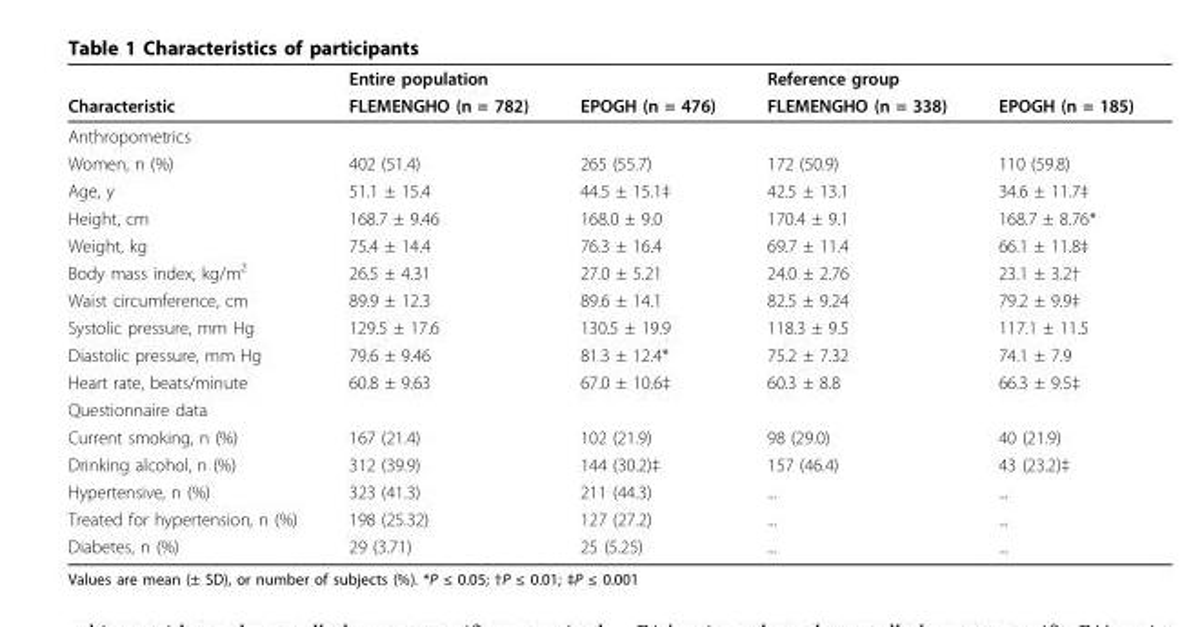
<table><thead><tr><td rowspan="2">Characteristic</td><td colspan="2">Entire population</td><td colspan="2">Reference group</td></tr><tr><td>FLEMENGHO (n = 782)</td><td>EPOGH (n = 476)</td><td>FLEMENGHO (n = 338)</td><td>EPOGH (n = 185)</td></tr></thead><tbody><tr><td colspan="5">Anthropometrics</td></tr><tr><td>Women, n (%)</td><td>402 (51.4)</td><td>265 (55.7)</td><td>172 (50.9)</td><td>110 (59.8)</td></tr><tr><td>Age, y</td><td>51.1 ± 15.4</td><td>44.5 ± 15.1‡</td><td>42.5 ± 13.1</td><td>34.6 ± 11.7‡</td></tr><tr><td>Height, cm</td><td>168.7 ± 9.46</td><td>168.0 ± 9.0</td><td>170.4 ± 9.1</td><td>168.7 ± 8.76*</td></tr><tr><td>Weight, kg</td><td>75.4 ± 14.4</td><td>76.3 ± 16.4</td><td>69.7 ± 11.4</td><td>66.1 ± 11.8‡</td></tr><tr><td>Body mass index, kg/m<sup>2</sup></td><td>26.5 ± 4.31</td><td>27.0 ± 5.21</td><td>24.0 ± 2.76</td><td>23.1 ± 3.2†</td></tr><tr><td>Waist circumference, cm</td><td>89.9 ± 12.3</td><td>89.6 ± 14.1</td><td>82.5 ± 9.24</td><td>79.2 ± 9.9‡</td></tr><tr><td>Systolic pressure, mm Hg</td><td>129.5 ± 17.6</td><td>130.5 ± 19.9</td><td>118.3 ± 9.5</td><td>117.1 ± 11.5</td></tr><tr><td>Diastolic pressure, mm Hg</td><td>79.6 ± 9.46</td><td>81.3 ± 12.4*</td><td>75.2 ± 7.32</td><td>74.1 ± 7.9</td></tr><tr><td>Heart rate, beats/minute</td><td>60.8 ± 9.63</td><td>67.0 ± 10.6‡</td><td>60.3 ± 8.8</td><td>66.3 ± 9.5‡</td></tr><tr><td colspan="5">Questionnaire data</td></tr><tr><td>Current smoking, n (%)</td><td>167 (21.4)</td><td>102 (21.9)</td><td>98 (29.0)</td><td>40 (21.9)</td></tr><tr><td>Drinking alcohol, n (%)</td><td>312 (39.9)</td><td>144 (30.2)‡</td><td>157 (46.4)</td><td>43 (23.2)‡</td></tr><tr><td>Hypertensive, n (%)</td><td>323 (41.3)</td><td>211 (44.3)</td><td>...</td><td>...</td></tr><tr><td>Treated for hypertension, n (%)</td><td>198 (25.32)</td><td>127 (27.2)</td><td>...</td><td>...</td></tr><tr><td>Diabetes, n (%)</td><td>29 (3.71)</td><td>25 (5.25)</td><td>...</td><td>...</td></tr></tbody></table>